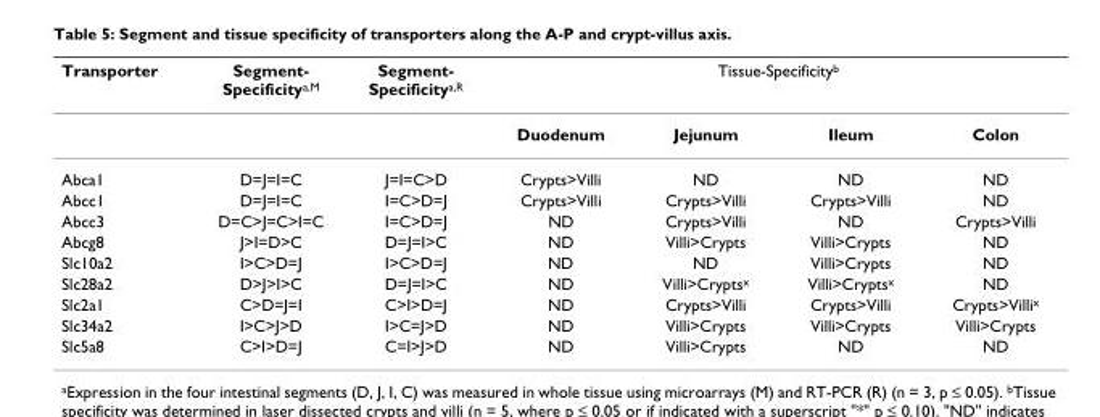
<table><thead><tr><td rowspan="2">Transporter</td><td rowspan="2">Segment- Specificity<sup>a,M</sup></td><td rowspan="2">Segment- Specificity<sup>a,R</sup></td><td colspan="4">Tissue-Specificity<sup>b</sup></td></tr><tr><td>Duodenum</td><td>Jejunum</td><td>Ileum</td><td>Colon</td></tr></thead><tbody><tr><td>Abca1</td><td>D=J=I=C</td><td>J=I=C&gt;D</td><td>Crypts&gt;Villi</td><td>ND</td><td>ND</td><td>ND</td></tr><tr><td>Abcc1</td><td>D=J=I=C</td><td>I=C&gt;D=J</td><td>Crypts&gt;Villi</td><td>Crypts&gt;Villi</td><td>Crypts&gt;Villi</td><td>ND</td></tr><tr><td>Abcc3</td><td>D=C&gt;J=C&gt;I=C</td><td>I=C&gt;D=J</td><td>ND</td><td>Crypts&gt;Villi</td><td>ND</td><td>Crypts&gt;Villi</td></tr><tr><td>Abcg8</td><td>J&gt;I=D&gt;C</td><td>D=J=I&gt;C</td><td>ND</td><td>Villi&gt;Crypts</td><td>Villi&gt;Crypts</td><td>ND</td></tr><tr><td>Slc10a2</td><td>I&gt;C&gt;D=J</td><td>I&gt;C&gt;D=J</td><td>ND</td><td>ND</td><td>Villi&gt;Crypts</td><td>ND</td></tr><tr><td>Slc28a2</td><td>D&gt;J&gt;I&gt;C</td><td>D=J=I&gt;C</td><td>ND</td><td>Villi&gt;Crypts<sup>x</sup></td><td>Villi&gt;Crypts<sup>x</sup></td><td>ND</td></tr><tr><td>Slc2a1</td><td>C&gt;D=J=I</td><td>C&gt;I&gt;D=J</td><td>ND</td><td>Crypts&gt;Villi</td><td>Crypts&gt;Villi</td><td>Crypts&gt;Villi<sup>x</sup></td></tr><tr><td>Slc34a2</td><td>I&gt;C&gt;J&gt;D</td><td>I&gt;C=J&gt;D</td><td>ND</td><td>Villi&gt;Crypts</td><td>Villi&gt;Crypts</td><td>Villi&gt;Crypts</td></tr><tr><td>Slc5a8</td><td>C&gt;I&gt;D=J</td><td>C=I&gt;J&gt;D</td><td>ND</td><td>Villi&gt;Crypts</td><td>ND</td><td>ND</td></tr></tbody></table>